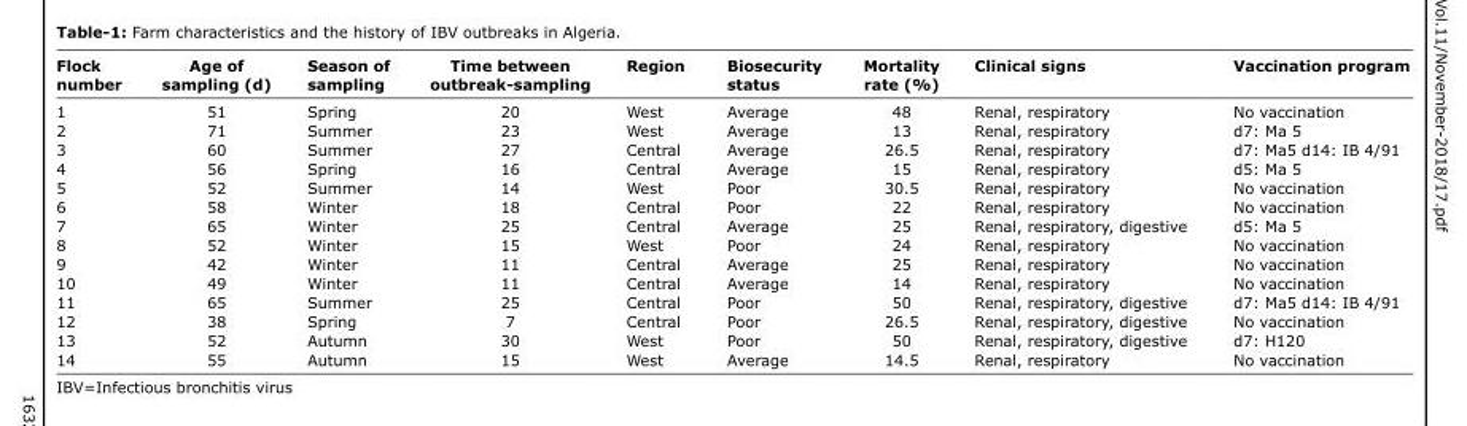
<table><thead><tr><td>Flock number</td><td>Age of sampling (d)</td><td>Season of sampling</td><td>Time between outbreak-sampling</td><td>Region</td><td>Biosecurity status</td><td>Mortality rate (%)</td><td>Clinical signs</td><td>Vaccination program</td></tr></thead><tbody><tr><td>1</td><td>51</td><td>Spring</td><td>20</td><td>West</td><td>Average</td><td>48</td><td>Renal, respiratory</td><td>No vaccination</td></tr><tr><td>2</td><td>71</td><td>Summer</td><td>23</td><td>West</td><td>Average</td><td>13</td><td>Renal, respiratory</td><td>d7: Ma 5</td></tr><tr><td>3</td><td>60</td><td>Summer</td><td>27</td><td>Central</td><td>Average</td><td>26.5</td><td>Renal, respiratory</td><td>d7: Ma5 d14: IB 4/91</td></tr><tr><td>4</td><td>56</td><td>Spring</td><td>16</td><td>Central</td><td>Average</td><td>15</td><td>Renal, respiratory</td><td>d5: Ma 5</td></tr><tr><td>5</td><td>52</td><td>Summer</td><td>14</td><td>West</td><td>Poor</td><td>30.5</td><td>Renal, respiratory</td><td>No vaccination</td></tr><tr><td>6</td><td>58</td><td>Winter</td><td>18</td><td>Central</td><td>Poor</td><td>22</td><td>Renal, respiratory</td><td>No vaccination</td></tr><tr><td>7</td><td>65</td><td>Winter</td><td>25</td><td>Central</td><td>Average</td><td>25</td><td>Renal, respiratory, digestive</td><td>d5: Ma 5</td></tr><tr><td>8</td><td>52</td><td>Winter</td><td>15</td><td>West</td><td>Poor</td><td>24</td><td>Renal, respiratory</td><td>No vaccination</td></tr><tr><td>9</td><td>42</td><td>Winter</td><td>11</td><td>Central</td><td>Average</td><td>25</td><td>Renal, respiratory</td><td>No vaccination</td></tr><tr><td>10</td><td>49</td><td>Winter</td><td>11</td><td>Central</td><td>Average</td><td>14</td><td>Renal, respiratory</td><td>No vaccination</td></tr><tr><td>11</td><td>65</td><td>Summer</td><td>25</td><td>Central</td><td>Poor</td><td>50</td><td>Renal, respiratory, digestive</td><td>d7: Ma5 d14: IB 4/91</td></tr><tr><td>12</td><td>38</td><td>Spring</td><td>7</td><td>Central</td><td>Poor</td><td>26.5</td><td>Renal, respiratory, digestive</td><td>No vaccination</td></tr><tr><td>13</td><td>52</td><td>Autumn</td><td>30</td><td>West</td><td>Poor</td><td>50</td><td>Renal, respiratory, digestive</td><td>d7: H120</td></tr><tr><td>14</td><td>55</td><td>Autumn</td><td>15</td><td>West</td><td>Average</td><td>14.5</td><td>Renal, respiratory</td><td>No vaccination</td></tr></tbody></table>